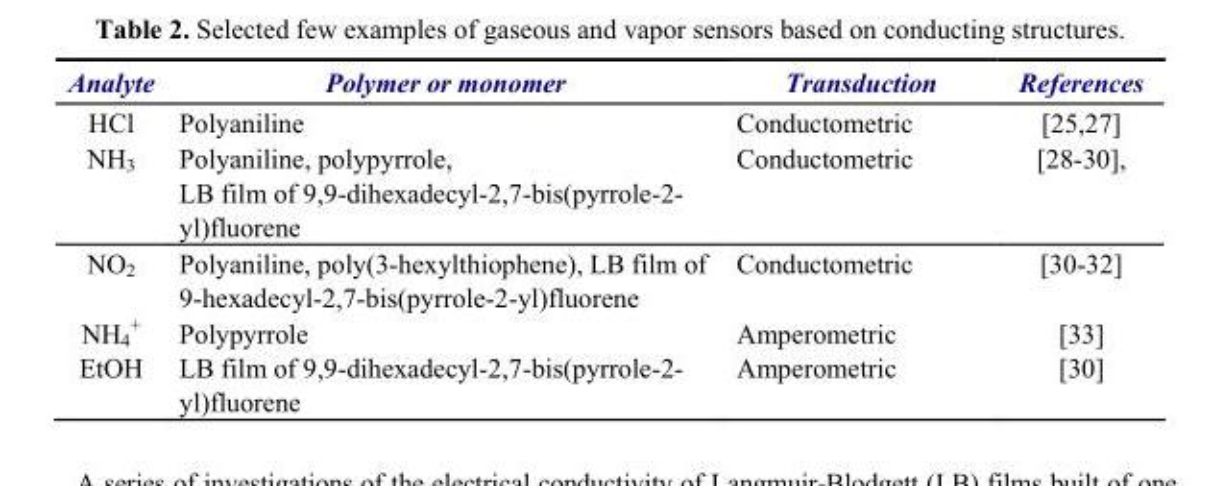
<table><thead><tr><td>Analyte</td><td>Polymer or monomer</td><td>Transduction</td><td>References</td></tr></thead><tbody><tr><td>HCl</td><td>Polyaniline</td><td>Conductometric</td><td>[25,27]</td></tr><tr><td>NH<sub>3</sub></td><td>Polyaniline, polypyrrole, LB film of 9,9-dihexadecyl-2,7-bis(pyrrole-2- yl)fluorene</td><td>Conductometric</td><td>[28-30],</td></tr><tr><td>NO<sub>2</sub></td><td>Polyaniline, poly(3-hexylthiophene), LB film of 9-hexadecyl-2,7-bis(pyrrole-2-yl)fluorene</td><td>Conductometric</td><td>[30-32]</td></tr><tr><td>NH<sub>4</sub> <sup>+</sup></td><td>Polypyrrole</td><td>Amperometric</td><td>[33]</td></tr><tr><td>EtOH</td><td>LB film of 9,9-dihexadecyl-2,7-bis(pyrrole-2- yl)fluorene</td><td>Amperometric</td><td>[30]</td></tr></tbody></table>